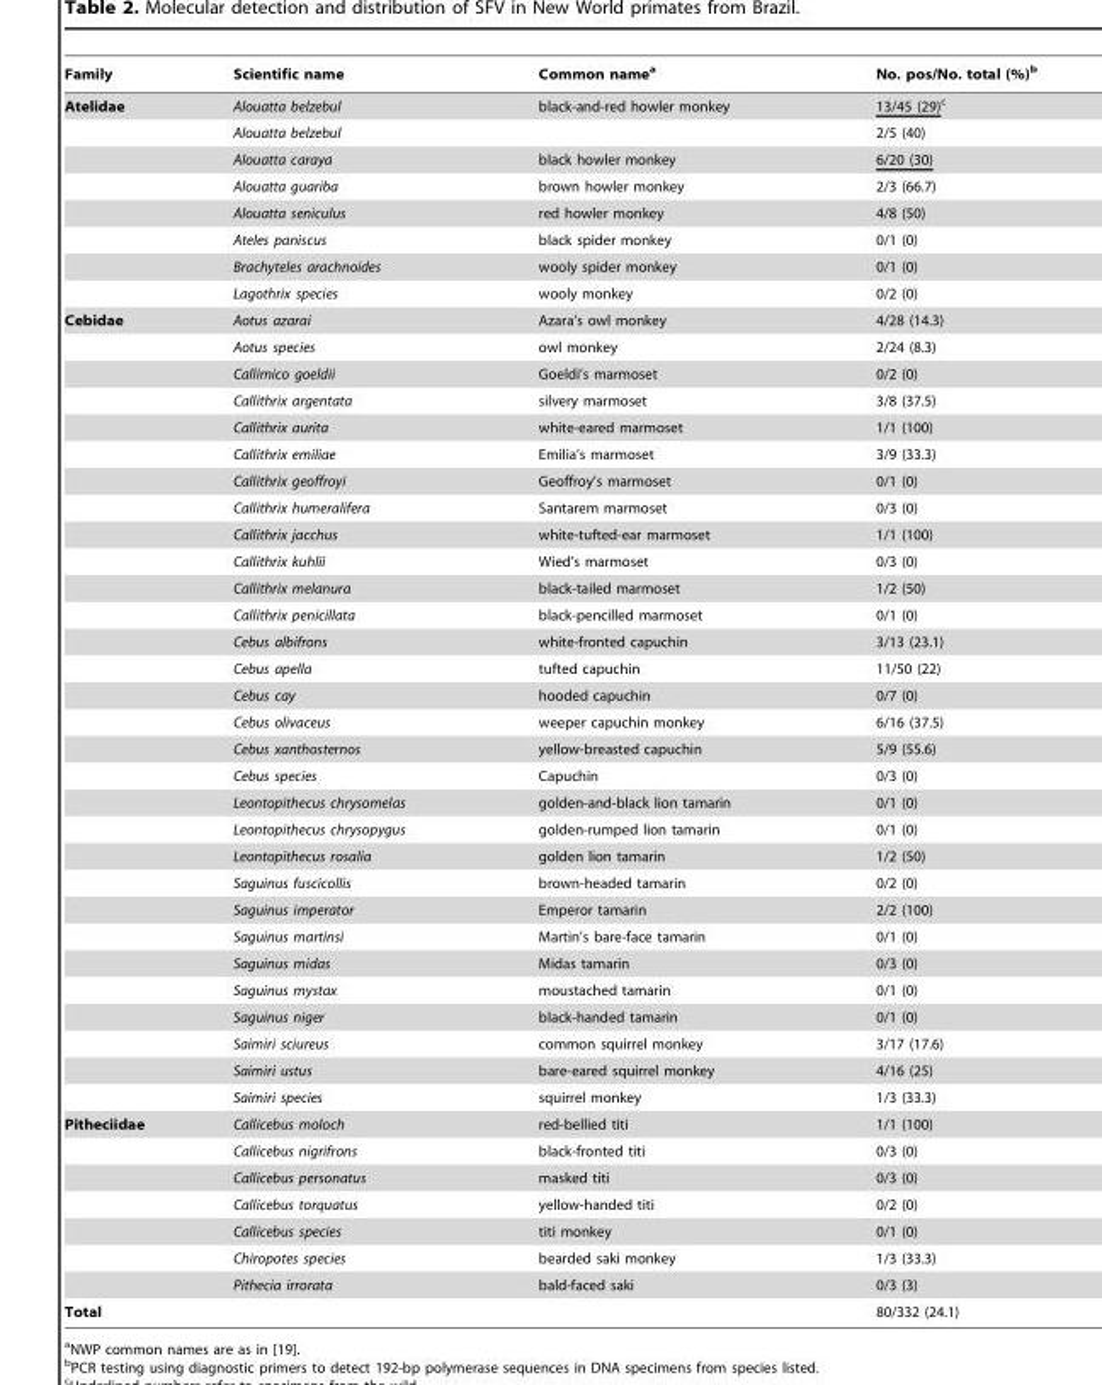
<table><thead><tr><td>Family</td><td>Scientific name</td><td>Common name<sup>a</sup></td><td>No. pos/No. total (%)<sup>b</sup></td></tr></thead><tbody><tr><td rowspan="8">Atelidae</td><td>Alouatta belzebul</td><td>black-and-red howler monkey</td><td>13/45 (29)c</td></tr><tr><td>Alouatta belzebul</td><td></td><td>2/5 (40)</td></tr><tr><td>Alouatta caraya</td><td>black howler monkey</td><td>6/20 (30)</td></tr><tr><td>Alouatta guariba</td><td>brown howler monkey</td><td>2/3 (66.7)</td></tr><tr><td>Alouatta seniculus</td><td>red howler monkey</td><td>4/8 (50)</td></tr><tr><td>Ateles paniscus</td><td>black spider monkey</td><td>0/1 (0)</td></tr><tr><td>Brachyteles arachnoides</td><td>wooly spider monkey</td><td>0/1 (0)</td></tr><tr><td>Lagothrix species</td><td>wooly monkey</td><td>0/2 (0)</td></tr><tr><td rowspan="30">Cebidae</td><td>Aotus azarai</td><td>Azara’s owl monkey</td><td>4/28 (14.3)</td></tr><tr><td>Aotus species</td><td>owl monkey</td><td>2/24 (8.3)</td></tr><tr><td>Callimico goeldii</td><td>Goeldi’s marmoset</td><td>0/2 (0)</td></tr><tr><td>Callithrix argentata</td><td>silvery marmoset</td><td>3/8 (37.5)</td></tr><tr><td>Callithrix aurita</td><td>white-eared marmoset</td><td>1/1 (100)</td></tr><tr><td>Callithrix emiliae</td><td>Emilia’s marmoset</td><td>3/9 (33.3)</td></tr><tr><td>Callithrix geoffroyi</td><td>Geoffroy’s marmoset</td><td>0/1 (0)</td></tr><tr><td>Callithrix humeralifera</td><td>Santarem marmoset</td><td>0/3 (0)</td></tr><tr><td>Callithrix jacchus</td><td>white-tufted-ear marmoset</td><td>1/1 (100)</td></tr><tr><td>Callithrix kuhlii</td><td>Wied’s marmoset</td><td>0/3 (0)</td></tr><tr><td>Callithrix melanura</td><td>black-tailed marmoset</td><td>1/2 (50)</td></tr><tr><td>Callithrix penicillata</td><td>black-pencilled marmoset</td><td>0/1 (0)</td></tr><tr><td>Cebus albifrons</td><td>white-fronted capuchin</td><td>3/13 (23.1)</td></tr><tr><td>Cebus apella</td><td>tufted capuchin</td><td>11/50 (22)</td></tr><tr><td>Cebus cay</td><td>hooded capuchin</td><td>0/7 (0)</td></tr><tr><td>Cebus olivaceus</td><td>weeper capuchin monkey</td><td>6/16 (37.5)</td></tr><tr><td>Cebus xanthosternos</td><td>yellow-breasted capuchin</td><td>5/9 (55.6)</td></tr><tr><td>Cebus species</td><td>Capuchin</td><td>0/3 (0)</td></tr><tr><td>Leontopithecus chrysomelas</td><td>golden-and-black lion tamarin</td><td>0/1 (0)</td></tr><tr><td>Leontopithecus chrysopygus</td><td>golden-rumped lion tamarin</td><td>0/1 (0)</td></tr><tr><td>Leontopithecus rosalia</td><td>golden lion tamarin</td><td>1/2 (50)</td></tr><tr><td>Saguinus fuscicollis</td><td>brown-headed tamarin</td><td>0/2 (0)</td></tr><tr><td>Saguinus imperator</td><td>Emperor tamarin</td><td>2/2 (100)</td></tr><tr><td>Saguinus martinsi</td><td>Martin’s bare-face tamarin</td><td>0/1 (0)</td></tr><tr><td>Saguinus midas</td><td>Midas tamarin</td><td>0/3 (0)</td></tr><tr><td>Saguinus mystax</td><td>moustached tamarin</td><td>0/1 (0)</td></tr><tr><td>Saguinus niger</td><td>black-handed tamarin</td><td>0/1 (0)</td></tr><tr><td>Saimiri sciureus</td><td>common squirrel monkey</td><td>3/17 (17.6)</td></tr><tr><td>Saimiri ustus</td><td>bare-eared squirrel monkey</td><td>4/16 (25)</td></tr><tr><td>Saimiri species</td><td>squirrel monkey</td><td>1/3 (33.3)</td></tr><tr><td rowspan="7">Pitheciidae</td><td>Callicebus moloch</td><td>red-bellied titi</td><td>1/1 (100)</td></tr><tr><td>Callicebus nigrifrons</td><td>black-fronted titi</td><td>0/3 (0)</td></tr><tr><td>Callicebus personatus</td><td>masked titi</td><td>0/3 (0)</td></tr><tr><td>Callicebus torquatus</td><td>yellow-handed titi</td><td>0/2 (0)</td></tr><tr><td>Callicebus species</td><td>titi monkey</td><td>0/1 (0)</td></tr><tr><td>Chiropotes species</td><td>bearded saki monkey</td><td>1/3 (33.3)</td></tr><tr><td>Pithecia irrorata</td><td>bald-faced saki</td><td>0/3 (3)</td></tr><tr><td>Total</td><td></td><td></td><td>80/332 (24.1)</td></tr></tbody></table>